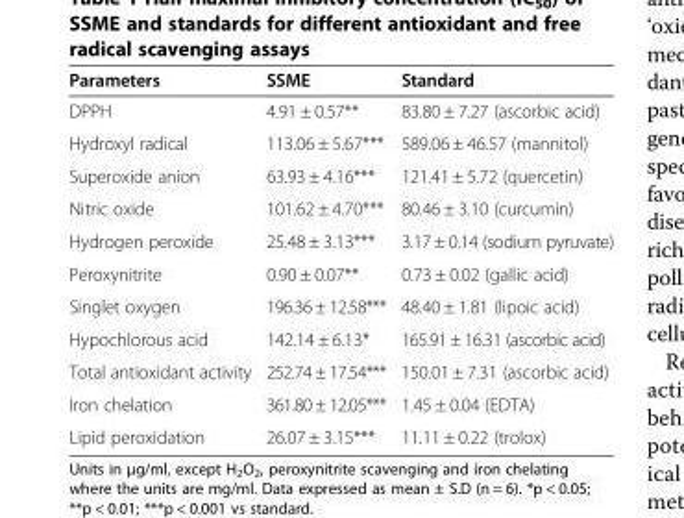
<table><thead><tr><td>Parameters</td><td>SSME</td><td>Standard</td></tr></thead><tbody><tr><td>DPPH</td><td>4.91 ± 0.57**</td><td>83.80 ± 7.27 (ascorbic acid)</td></tr><tr><td>Hydroxyl radical</td><td>113.06 ± 5.67***</td><td>589.06 ± 46.57 (mannitol)</td></tr><tr><td>Superoxide anion</td><td>63.93 ± 4.16***</td><td>121.41 ± 5.72 (quercetin)</td></tr><tr><td>Nitric oxide</td><td>101.62 ± 4.70***</td><td>80.46 ± 3.10 (curcumin)</td></tr><tr><td>Hydrogen peroxide</td><td>25.48 ± 3.13***</td><td>3.17 ± 0.14 (sodium pyruvate)</td></tr><tr><td>Peroxynitrite</td><td>0.90 ± 0.07**</td><td>0.73 ± 0.02 (gallic acid)</td></tr><tr><td>Singlet oxygen</td><td>196.36 ± 12.58***</td><td>48.40 ± 1.81 (lipoic acid)</td></tr><tr><td>Hypochlorous acid</td><td>142.14 ± 6.13*</td><td>165.91 ± 16.31 (ascorbic acid)</td></tr><tr><td>Total antioxidant activity</td><td>252.74 ± 17.54***</td><td>150.01 ± 7.31 (ascorbic acid)</td></tr><tr><td>Iron chelation</td><td>361.80 ± 12.05***</td><td>1.45 ± 0.04 (EDTA)</td></tr><tr><td>Lipid peroxidation</td><td>26.07 ± 3.15***</td><td>11.11 ± 0.22 (trolox)</td></tr></tbody></table>